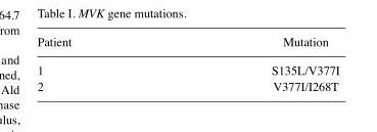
<table><thead><tr><td>Patient</td><td>Mutation</td></tr></thead><tbody><tr><td>1</td><td>S135L/V377I</td></tr><tr><td>2</td><td>V377I/I268T</td></tr></tbody></table>